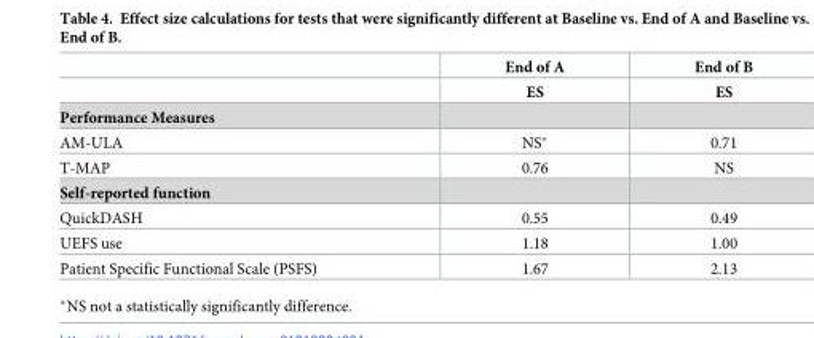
<table><thead><tr><td rowspan="2"></td><td rowspan="2">End of A ES</td><td rowspan="2">End of B ES</td></tr><tr></tr></thead><tbody><tr><td colspan="3">Performance Measures</td></tr><tr><td>AM-ULA</td><td>NS*</td><td>0.71</td></tr><tr><td>T-MAP</td><td>0.76</td><td>NS</td></tr><tr><td colspan="3">Self-reported function</td></tr><tr><td>QuickDASH</td><td>0.55</td><td>0.49</td></tr><tr><td>UEFS use</td><td>1.18</td><td>1.00</td></tr><tr><td>Patient Specific Functional Scale (PSFS)</td><td>1.67</td><td>2.13</td></tr></tbody></table>